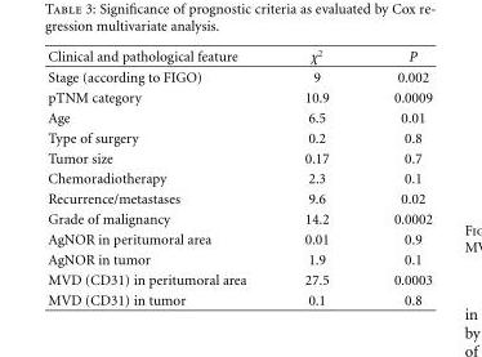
<table><thead><tr><td>Clinical and pathological feature</td><td>χ<sup>2</sup></td><td>P</td></tr></thead><tbody><tr><td>Stage (according to FIGO)</td><td>9</td><td>0.002</td></tr><tr><td>pTNM category</td><td>10.9</td><td>0.0009</td></tr><tr><td>Age</td><td>6.5</td><td>0.01</td></tr><tr><td>Type of surgery</td><td>0.2</td><td>0.8</td></tr><tr><td>Tumor size</td><td>0.17</td><td>0.7</td></tr><tr><td>Chemoradiotherapy</td><td>2.3</td><td>0.1</td></tr><tr><td>Recurrence/metastases</td><td>9.6</td><td>0.02</td></tr><tr><td>Grade of malignancy</td><td>14.2</td><td>0.0002</td></tr><tr><td>AgNOR in peritumoral area</td><td>0.01</td><td>0.9</td></tr><tr><td>AgNOR in tumor</td><td>1.9</td><td>0.1</td></tr><tr><td>MVD (CD31) in peritumoral area</td><td>27.5</td><td>0.0003</td></tr><tr><td>MVD (CD31) in tumor</td><td>0.1</td><td>0.8</td></tr></tbody></table>